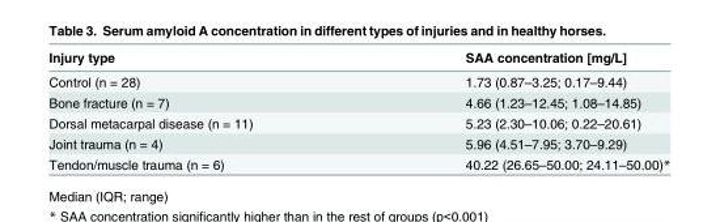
<table><thead><tr><td>Injury type</td><td>SAA concentration [mg/L]</td></tr></thead><tbody><tr><td>Control (n = 28)</td><td>1.73 (0.87–3.25; 0.17–9.44)</td></tr><tr><td>Bone fracture (n = 7)</td><td>4.66 (1.23–12.45; 1.08–14.85)</td></tr><tr><td>Dorsal metacarpal disease (n = 11)</td><td>5.23 (2.30–10.06; 0.22–20.61)</td></tr><tr><td>Joint trauma (n = 4)</td><td>5.96 (4.51–7.95; 3.70–9.29)</td></tr><tr><td>Tendon/muscle trauma (n = 6)</td><td>40.22 (26.65–50.00; 24.11–50.00)*</td></tr></tbody></table>